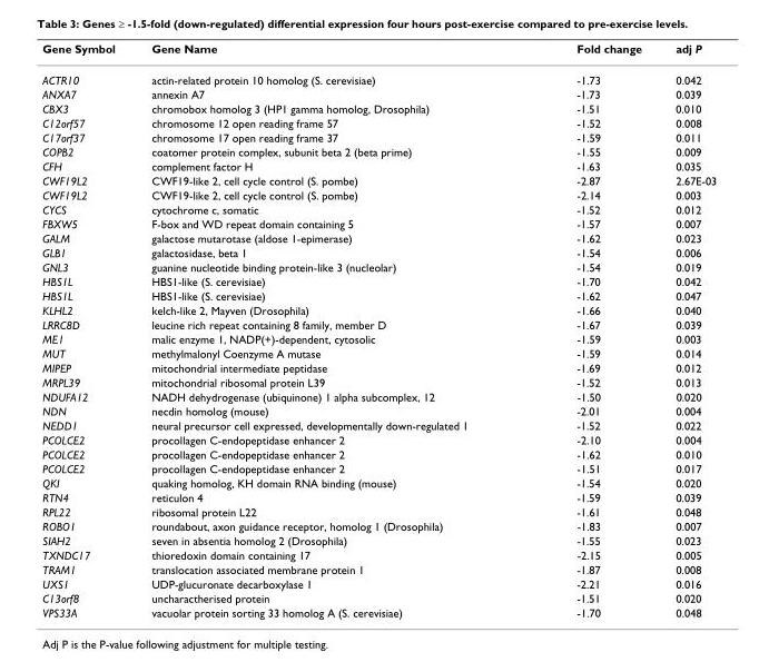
<table><thead><tr><td>Gene Symbol</td><td>Gene Name</td><td>Fold change</td><td>adj P</td></tr></thead><tbody><tr><td>ACTR10</td><td>actin-related protein 10 homolog (S. cerevisiae)</td><td>-1.73</td><td>0.042</td></tr><tr><td>ANXA7</td><td>annexin A7</td><td>-1.73</td><td>0.039</td></tr><tr><td>CBX3</td><td>chromobox homolog 3 (HP1 gamma homolog, Drosophila)</td><td>-1.51</td><td>0.010</td></tr><tr><td>C12orf57</td><td>chromosome 12 open reading frame 57</td><td>-1.52</td><td>0.008</td></tr><tr><td>C17orf37</td><td>chromosome 17 open reading frame 37</td><td>-1.59</td><td>0.011</td></tr><tr><td>COPB2</td><td>coatomer protein complex, subunit beta 2 (beta prime)</td><td>-1.55</td><td>0.009</td></tr><tr><td>CFH</td><td>complement factor H</td><td>-1.63</td><td>0.035</td></tr><tr><td>CWF19L2</td><td>CWF19-like 2, cell cycle control (S. pombe)</td><td>-2.87</td><td>2.67E-03</td></tr><tr><td>CWF19L2</td><td>CWF19-like 2, cell cycle control (S. pombe)</td><td>-2.14</td><td>0.003</td></tr><tr><td>CYCS</td><td>cytochrome c, somatic</td><td>-1.52</td><td>0.012</td></tr><tr><td>FBXW5</td><td>F-box and WD repeat domain containing 5</td><td>-1.57</td><td>0.007</td></tr><tr><td>GALM</td><td>galactose mutarotase (aldose 1-epimerase)</td><td>-1.62</td><td>0.023</td></tr><tr><td>GLB1</td><td>galactosidase, beta 1</td><td>-1.54</td><td>0.006</td></tr><tr><td>GNL3</td><td>guanine nucleotide binding protein-like 3 (nucleolar)</td><td>-1.54</td><td>0.019</td></tr><tr><td>HBS1L</td><td>HBS1-like (S. cerevisiae)</td><td>-1.70</td><td>0.042</td></tr><tr><td>HBS1L</td><td>HBS1-like (S. cerevisiae)</td><td>-1.62</td><td>0.047</td></tr><tr><td>KLHL2</td><td>kelch-like 2, Mayven (Drosophila)</td><td>-1.66</td><td>0.040</td></tr><tr><td>LRRC8D</td><td>leucine rich repeat containing 8 family, member D</td><td>-1.67</td><td>0.039</td></tr><tr><td>ME1</td><td>malic enzyme 1, NADP(+)-dependent, cytosolic</td><td>-1.59</td><td>0.003</td></tr><tr><td>MUT</td><td>methylmalonyl Coenzyme A mutase</td><td>-1.59</td><td>0.014</td></tr><tr><td>MIPEP</td><td>mitochondrial intermediate peptidase</td><td>-1.69</td><td>0.012</td></tr><tr><td>MRPL39</td><td>mitochondrial ribosomal protein L39</td><td>-1.52</td><td>0.013</td></tr><tr><td>NDUFA12</td><td>NADH dehydrogenase (ubiquinone) 1 alpha subcomplex, 12</td><td>-1.50</td><td>0.020</td></tr><tr><td>NDN</td><td>necdin homolog (mouse)</td><td>-2.01</td><td>0.004</td></tr><tr><td>NEDD1</td><td>neural precursor cell expressed, developmentally down-regulated 1</td><td>-1.52</td><td>0.022</td></tr><tr><td>PCOLCE2</td><td>procollagen C-endopeptidase enhancer 2</td><td>-2.10</td><td>0.004</td></tr><tr><td>PCOLCE2</td><td>procollagen C-endopeptidase enhancer 2</td><td>-1.62</td><td>0.010</td></tr><tr><td>PCOLCE2</td><td>procollagen C-endopeptidase enhancer 2</td><td>-1.51</td><td>0.017</td></tr><tr><td>QKI</td><td>quaking homolog, KH domain RNA binding (mouse)</td><td>-1.54</td><td>0.020</td></tr><tr><td>RTN4</td><td>reticulon 4</td><td>-1.59</td><td>0.039</td></tr><tr><td>RPL22</td><td>ribosomal protein L22</td><td>-1.61</td><td>0.048</td></tr><tr><td>ROBO1</td><td>roundabout, axon guidance receptor, homolog 1 (Drosophila)</td><td>-1.83</td><td>0.007</td></tr><tr><td>SIAH2</td><td>seven in absentia homolog 2 (Drosophila)</td><td>-1.55</td><td>0.023</td></tr><tr><td>TXNDC17</td><td>thioredoxin domain containing 17</td><td>-2.15</td><td>0.005</td></tr><tr><td>TRAM1</td><td>translocation associated membrane protein 1</td><td>-1.87</td><td>0.008</td></tr><tr><td>UXS1</td><td>UDP-glucuronate decarboxylase 1</td><td>-2.21</td><td>0.016</td></tr><tr><td>C13orf8</td><td>uncharactherised protein</td><td>-1.51</td><td>0.020</td></tr><tr><td>VPS33A</td><td>vacuolar protein sorting 33 homolog A (S. cerevisiae)</td><td>-1.70</td><td>0.048</td></tr></tbody></table>